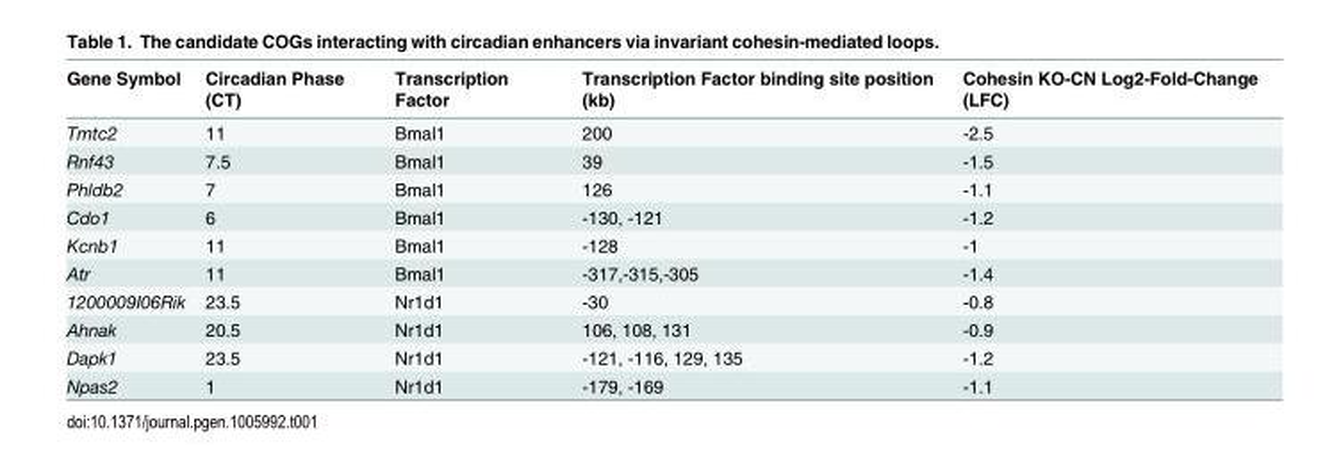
<table><thead><tr><td>Gene Symbol</td><td>Circadian Phase (CT)</td><td>Transcription Factor</td><td>Transcription Factor binding site position (kb)</td><td>Cohesin KO-CN Log2-Fold-Change (LFC)</td></tr></thead><tbody><tr><td>Tmtc2</td><td>11</td><td>Bmal1</td><td>200</td><td>-2.5</td></tr><tr><td>Rnf43</td><td>7.5</td><td>Bmal1</td><td>39</td><td>-1.5</td></tr><tr><td>Phldb2</td><td>7</td><td>Bmal1</td><td>126</td><td>-1.1</td></tr><tr><td>Cdo1</td><td>6</td><td>Bmal1</td><td>-130, -121</td><td>-1.2</td></tr><tr><td>Kcnb1</td><td>11</td><td>Bmal1</td><td>-128</td><td>-1</td></tr><tr><td>Atr</td><td>11</td><td>Bmal1</td><td>-317,-315,-305</td><td>-1.4</td></tr><tr><td>1200009I06Rik</td><td>23.5</td><td>Nr1d1</td><td>-30</td><td>-0.8</td></tr><tr><td>Ahnak</td><td>20.5</td><td>Nr1d1</td><td>106, 108, 131</td><td>-0.9</td></tr><tr><td>Dapk1</td><td>23.5</td><td>Nr1d1</td><td>-121, -116, 129, 135</td><td>-1.2</td></tr><tr><td>Npas2</td><td>1</td><td>Nr1d1</td><td>-179, -169</td><td>-1.1</td></tr></tbody></table>